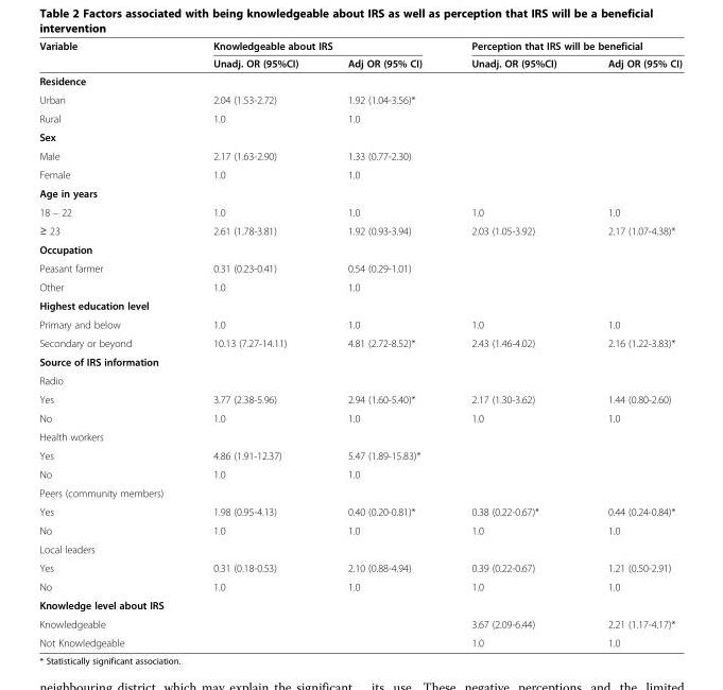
<table><thead><tr><td rowspan="2">Variable</td><td colspan="2">Knowledgeable about IRS</td><td colspan="2">Perception that IRS will be beneficial</td></tr><tr><td>Unadj. OR (95%CI)</td><td>Adj OR (95% CI)</td><td>Unadj. OR (95%CI)</td><td>Adj OR (95% CI)</td></tr></thead><tbody><tr><td colspan="5">Residence</td></tr><tr><td>Urban</td><td>2.04 (1.53-2.72)</td><td>1.92 (1.04-3.56)*</td><td></td><td></td></tr><tr><td>Rural</td><td>1.0</td><td>1.0</td><td></td><td></td></tr><tr><td colspan="5">Sex</td></tr><tr><td>Male</td><td>2.17 (1.63-2.90)</td><td>1.33 (0.77-2.30)</td><td></td><td></td></tr><tr><td>Female</td><td>1.0</td><td>1.0</td><td></td><td></td></tr><tr><td colspan="5">Age in years</td></tr><tr><td>18 – 22</td><td>1.0</td><td>1.0</td><td>1.0</td><td>1.0</td></tr><tr><td>≥ 23</td><td>2.61 (1.78-3.81)</td><td>1.92 (0.93-3.94)</td><td>2.03 (1.05-3.92)</td><td>2.17 (1.07-4.38)*</td></tr><tr><td colspan="5">Occupation</td></tr><tr><td>Peasant farmer</td><td>0.31 (0.23-0.41)</td><td>0.54 (0.29-1.01)</td><td></td><td></td></tr><tr><td>Other</td><td>1.0</td><td>1.0</td><td></td><td></td></tr><tr><td colspan="5">Highest education level</td></tr><tr><td>Primary and below</td><td>1.0</td><td>1.0</td><td>1.0</td><td>1.0</td></tr><tr><td>Secondary or beyond</td><td>10.13 (7.27-14.11)</td><td>4.81 (2.72-8.52)*</td><td>2.43 (1.46-4.02)</td><td>2.16 (1.22-3.83)*</td></tr><tr><td colspan="5">Source of IRS information</td></tr><tr><td colspan="5">Radio</td></tr><tr><td>Yes</td><td>3.77 (2.38-5.96)</td><td>2.94 (1.60-5.40)*</td><td>2.17 (1.30-3.62)</td><td>1.44 (0.80-2.60)</td></tr><tr><td>No</td><td>1.0</td><td>1.0</td><td>1.0</td><td>1.0</td></tr><tr><td colspan="5">Health workers</td></tr><tr><td>Yes</td><td>4.86 (1.91-12.37)</td><td>5.47 (1.89-15.83)*</td><td></td><td></td></tr><tr><td>No</td><td>1.0</td><td>1.0</td><td></td><td></td></tr><tr><td colspan="5">Peers (community members)</td></tr><tr><td>Yes</td><td>1.98 (0.95-4.13)</td><td>0.40 (0.20-0.81)*</td><td>0.38 (0.22-0.67)*</td><td>0.44 (0.24-0.84)*</td></tr><tr><td>No</td><td>1.0</td><td>1.0</td><td>1.0</td><td>1.0</td></tr><tr><td colspan="5">Local leaders</td></tr><tr><td>Yes</td><td>0.31 (0.18-0.53)</td><td>2.10 (0.88-4.94)</td><td>0.39 (0.22-0.67)</td><td>1.21 (0.50-2.91)</td></tr><tr><td>No</td><td>1.0</td><td>1.0</td><td>1.0</td><td>1.0</td></tr><tr><td colspan="5">Knowledge level about IRS</td></tr><tr><td>Knowledgeable</td><td></td><td></td><td>3.67 (2.09-6.44)</td><td>2.21 (1.17-4.17)*</td></tr><tr><td>Not Knowledgeable</td><td></td><td></td><td>1.0</td><td>1.0</td></tr></tbody></table>